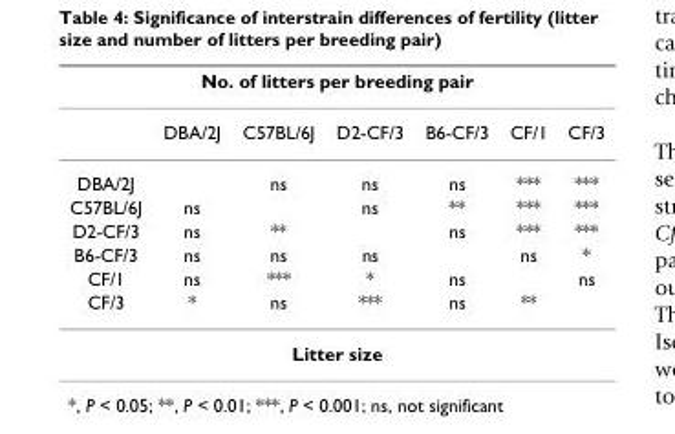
<table><thead><tr><td colspan="7">No. of litters per breeding pair</td></tr><tr><td></td><td>DBA/2J</td><td>C57BL/6J</td><td>D2-CF/3</td><td>B6-CF/3</td><td>CF/1</td><td>CF/3</td></tr></thead><tbody><tr><td>DBA/2J</td><td></td><td>ns</td><td>ns</td><td>ns</td><td>***</td><td>***</td></tr><tr><td>C57BL/6J</td><td>ns</td><td></td><td>ns</td><td>**</td><td>***</td><td>***</td></tr><tr><td>D2-CF/3</td><td>ns</td><td>**</td><td></td><td>ns</td><td>***</td><td>***</td></tr><tr><td>B6-CF/3</td><td>ns</td><td>ns</td><td>ns</td><td></td><td>ns</td><td>*</td></tr><tr><td>CF/1</td><td>ns</td><td>***</td><td>*</td><td>ns</td><td></td><td>ns</td></tr><tr><td>CF/3</td><td>*</td><td>ns</td><td>***</td><td>ns</td><td>**</td><td></td></tr><tr><td colspan="7">Litter size</td></tr></tbody></table>